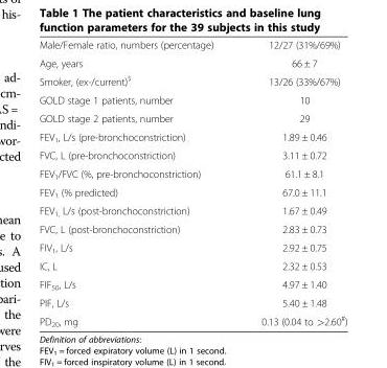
<table><tbody><tr><td>Male/Female ratio, numbers (percentage)</td><td>12/27 (31%/69%)</td></tr><tr><td>Age, years</td><td>66 ± 7</td></tr><tr><td>Smoker, (ex-/current)<sup>$</sup></td><td>13/26 (33%/67%)</td></tr><tr><td>GOLD stage 1 patients, number</td><td>10</td></tr><tr><td>GOLD stage 2 patients, number</td><td>29</td></tr><tr><td>FEV<sub>1</sub>, L/s (pre-bronchoconstriction)</td><td>1.89 ± 0.46</td></tr><tr><td>FVC, L (pre-bronchoconstriction)</td><td>3.11 ± 0.72</td></tr><tr><td>FEV<sub>1</sub>/FVC (%, pre-bronchoconstriction)</td><td>61.1 ± 8.1</td></tr><tr><td>FEV<sub>1</sub> (% predicted)</td><td>67.0 ± 11.1</td></tr><tr><td>FEV<sub>1,</sub> L/s (post-bronchoconstriction)</td><td>1.67 ± 0.49</td></tr><tr><td>FVC, L (post-bronchoconstriction)</td><td>2.83 ± 0.73</td></tr><tr><td>FIV<sub>1</sub>, L/s</td><td>2.92 ± 0.75</td></tr><tr><td>IC, L</td><td>2.32 ± 0.53</td></tr><tr><td>FIF<sub>50</sub>, L/s</td><td>4.97 ± 1.40</td></tr><tr><td>PIF, L/s</td><td>5.40 ± 1.48</td></tr><tr><td>PD<sub>20</sub>, mg</td><td>0.13 (0.04 to &gt;2.60<sup>#</sup>)</td></tr></tbody></table>